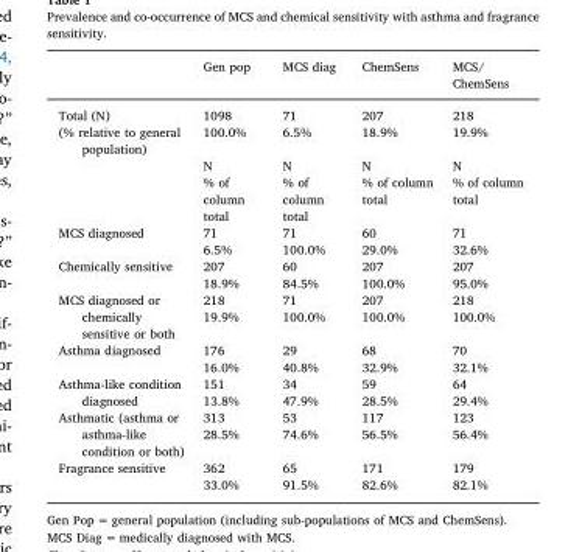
<table><thead><tr><td></td><td>Gen pop</td><td>MCS diag</td><td>ChemSens</td><td>MCS/ ChemSens</td></tr></thead><tbody><tr><td>Total (N)</td><td>1098</td><td>71</td><td>207</td><td>218</td></tr><tr><td rowspan="3">(% relative to general population)</td><td>100.0%</td><td>6.5%</td><td>18.9%</td><td>19.9%</td></tr><tr><td>N</td><td>N</td><td>N</td><td>N</td></tr><tr><td>% of column total</td><td>% of column total</td><td>% of column total</td><td>% of column total</td></tr><tr><td rowspan="2">MCS diagnosed</td><td>71</td><td>71</td><td>60</td><td>71</td></tr><tr><td>6.5%</td><td>100.0%</td><td>29.0%</td><td>32.6%</td></tr><tr><td rowspan="2">Chemically sensitive</td><td>207</td><td>60</td><td>207</td><td>207</td></tr><tr><td>18.9%</td><td>84.5%</td><td>100.0%</td><td>95.0%</td></tr><tr><td rowspan="2">MCS diagnosed or chemically sensitive or both</td><td>218</td><td>71</td><td>207</td><td>218</td></tr><tr><td>19.9%</td><td>100.0%</td><td>100.0%</td><td>100.0%</td></tr><tr><td rowspan="2">Asthma diagnosed</td><td>176</td><td>29</td><td>68</td><td>70</td></tr><tr><td>16.0%</td><td>40.8%</td><td>32.9%</td><td>32.1%</td></tr><tr><td rowspan="2">Asthma-like condition diagnosed</td><td>151</td><td>34</td><td>59</td><td>64</td></tr><tr><td>13.8%</td><td>47.9%</td><td>28.5%</td><td>29.4%</td></tr><tr><td rowspan="2">Asthmatic (asthma or asthma-like condition or both)</td><td>313</td><td>53</td><td>117</td><td>123</td></tr><tr><td>28.5%</td><td>74.6%</td><td>56.5%</td><td>56.4%</td></tr><tr><td rowspan="2">Fragrance sensitive</td><td>362</td><td>65</td><td>171</td><td>179</td></tr><tr><td>33.0%</td><td>91.5%</td><td>82.6%</td><td>82.1%</td></tr></tbody></table>